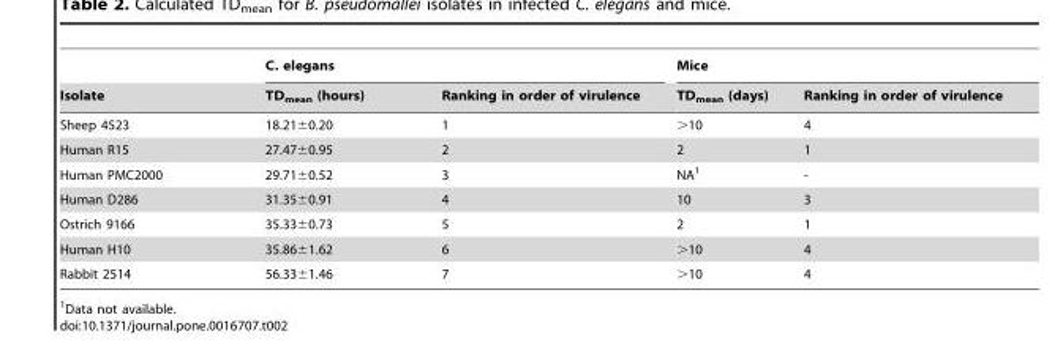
<table><thead><tr><td rowspan="2">Isolate</td><td colspan="2">C. elegans</td><td colspan="2">Mice</td></tr><tr><td>TD<sub>mean</sub> (hours)</td><td>Ranking in order of virulence</td><td>TD<sub>mean</sub> (days)</td><td>Ranking in order of virulence</td></tr></thead><tbody><tr><td>Sheep 4523</td><td>18.21±0.20</td><td>1</td><td>&gt;10</td><td>4</td></tr><tr><td>Human R15</td><td>27.47±0.95</td><td>2</td><td>2</td><td>1</td></tr><tr><td>Human PMC2000</td><td>29.71±0.52</td><td>3</td><td>NA<sup>1</sup></td><td>-</td></tr><tr><td>Human D286</td><td>31.35±0.91</td><td>4</td><td>10</td><td>3</td></tr><tr><td>Ostrich 9166</td><td>35.33±0.73</td><td>5</td><td>2</td><td>1</td></tr><tr><td>Human H10</td><td>35.86±1.62</td><td>6</td><td>&gt;10</td><td>4</td></tr><tr><td>Rabbit 2514</td><td>56.33±1.46</td><td>7</td><td>&gt;10</td><td>4</td></tr></tbody></table>